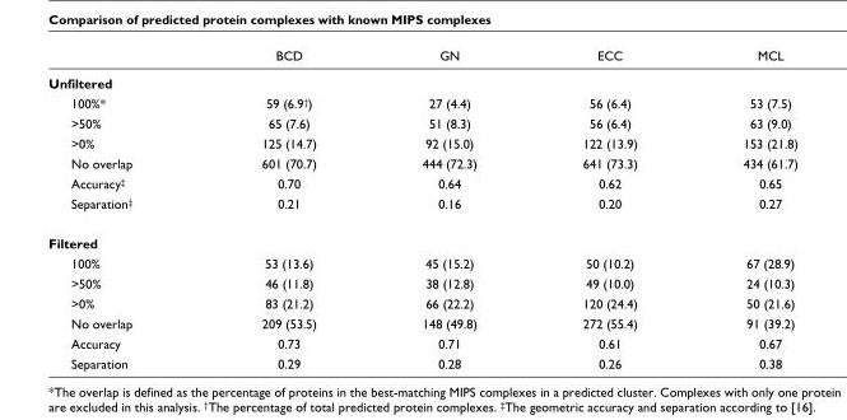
<table><thead><tr><td></td><td>BCD</td><td>GN</td><td>ECC</td><td>MCL</td></tr></thead><tbody><tr><td colspan="5">Unfiltered</td></tr><tr><td>100%*</td><td>59 (6.9<sup>†</sup>)</td><td>27 (4.4)</td><td>56 (6.4)</td><td>53 (7.5)</td></tr><tr><td>&gt;50%</td><td>65 (7.6)</td><td>51 (8.3)</td><td>56 (6.4)</td><td>63 (9.0)</td></tr><tr><td>&gt;0%</td><td>125 (14.7)</td><td>92 (15.0)</td><td>122 (13.9)</td><td>153 (21.8)</td></tr><tr><td>No overlap</td><td>601 (70.7)</td><td>444 (72.3)</td><td>641 (73.3)</td><td>434 (61.7)</td></tr><tr><td>Accuracy<sup>‡</sup></td><td>0.70</td><td>0.64</td><td>0.62</td><td>0.65</td></tr><tr><td>Separation<sup>‡</sup></td><td>0.21</td><td>0.16</td><td>0.20</td><td>0.27</td></tr><tr><td colspan="5">Filtered</td></tr><tr><td>100%</td><td>53 (13.6)</td><td>45 (15.2)</td><td>50 (10.2)</td><td>67 (28.9)</td></tr><tr><td>&gt;50%</td><td>46 (11.8)</td><td>38 (12.8)</td><td>49 (10.0)</td><td>24 (10.3)</td></tr><tr><td>&gt;0%</td><td>83 (21.2)</td><td>66 (22.2)</td><td>120 (24.4)</td><td>50 (21.6)</td></tr><tr><td>No overlap</td><td>209 (53.5)</td><td>148 (49.8)</td><td>272 (55.4)</td><td>91 (39.2)</td></tr><tr><td>Accuracy</td><td>0.73</td><td>0.71</td><td>0.61</td><td>0.67</td></tr><tr><td>Separation</td><td>0.29</td><td>0.28</td><td>0.26</td><td>0.38</td></tr></tbody></table>